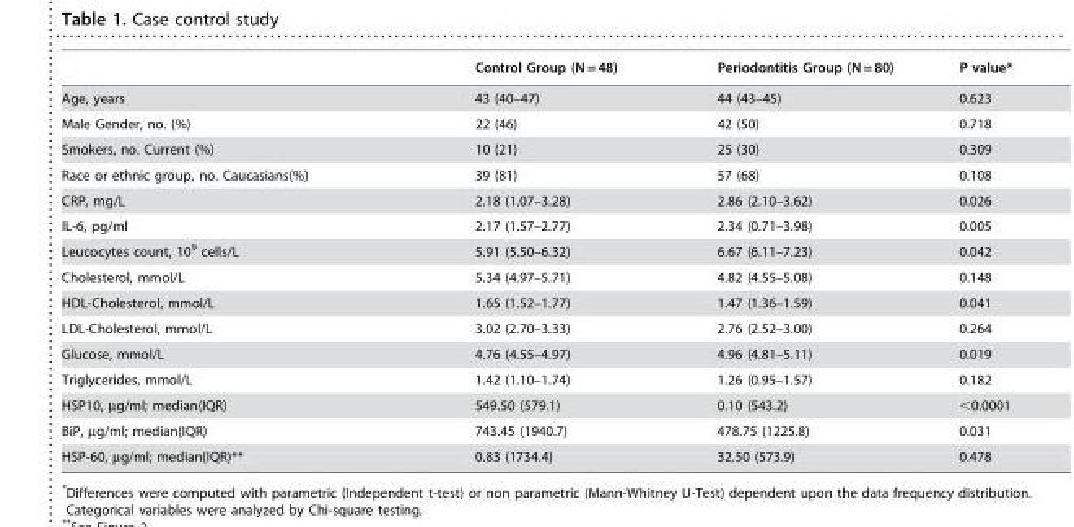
<table><thead><tr><td></td><td>Control Group (N = 48)</td><td>Periodontitis Group (N = 80)</td><td>P value*</td></tr></thead><tbody><tr><td>Age, years</td><td>43 (40–47)</td><td>44 (43–45)</td><td>0.623</td></tr><tr><td>Male Gender, no. (%)</td><td>22 (46)</td><td>42 (50)</td><td>0.718</td></tr><tr><td>Smokers, no. Current (%)</td><td>10 (21)</td><td>25 (30)</td><td>0.309</td></tr><tr><td>Race or ethnic group, no. Caucasians(%)</td><td>39 (81)</td><td>57 (68)</td><td>0.108</td></tr><tr><td>CRP, mg/L</td><td>2.18 (1.07–3.28)</td><td>2.86 (2.10–3.62)</td><td>0.026</td></tr><tr><td>IL-6, pg/ml</td><td>2.17 (1.57–2.77)</td><td>2.34 (0.71–3.98)</td><td>0.005</td></tr><tr><td>Leucocytes count, 10<sup>9</sup> cells/L</td><td>5.91 (5.50–6.32)</td><td>6.67 (6.11–7.23)</td><td>0.042</td></tr><tr><td>Cholesterol, mmol/L</td><td>5.34 (4.97–5.71)</td><td>4.82 (4.55–5.08)</td><td>0.148</td></tr><tr><td>HDL-Cholesterol, mmol/L</td><td>1.65 (1.52–1.77)</td><td>1.47 (1.36–1.59)</td><td>0.041</td></tr><tr><td>LDL-Cholesterol, mmol/L</td><td>3.02 (2.70–3.33)</td><td>2.76 (2.52–3.00)</td><td>0.264</td></tr><tr><td>Glucose, mmol/L</td><td>4.76 (4.55–4.97)</td><td>4.96 (4.81–5.11)</td><td>0.019</td></tr><tr><td>Triglycerides, mmol/L</td><td>1.42 (1.10–1.74)</td><td>1.26 (0.95–1.57)</td><td>0.182</td></tr><tr><td>HSP10, µg/ml; median(IQR)</td><td>549.50 (579.1)</td><td>0.10 (543.2)</td><td>&lt;0.0001</td></tr><tr><td>BiP, µg/ml; median(IQR)</td><td>743.45 (1940.7)</td><td>478.75 (1225.8)</td><td>0.031</td></tr><tr><td>HSP-60, µg/ml; median(IQR)**</td><td>0.83 (1734.4)</td><td>32.50 (573.9)</td><td>0.478</td></tr></tbody></table>